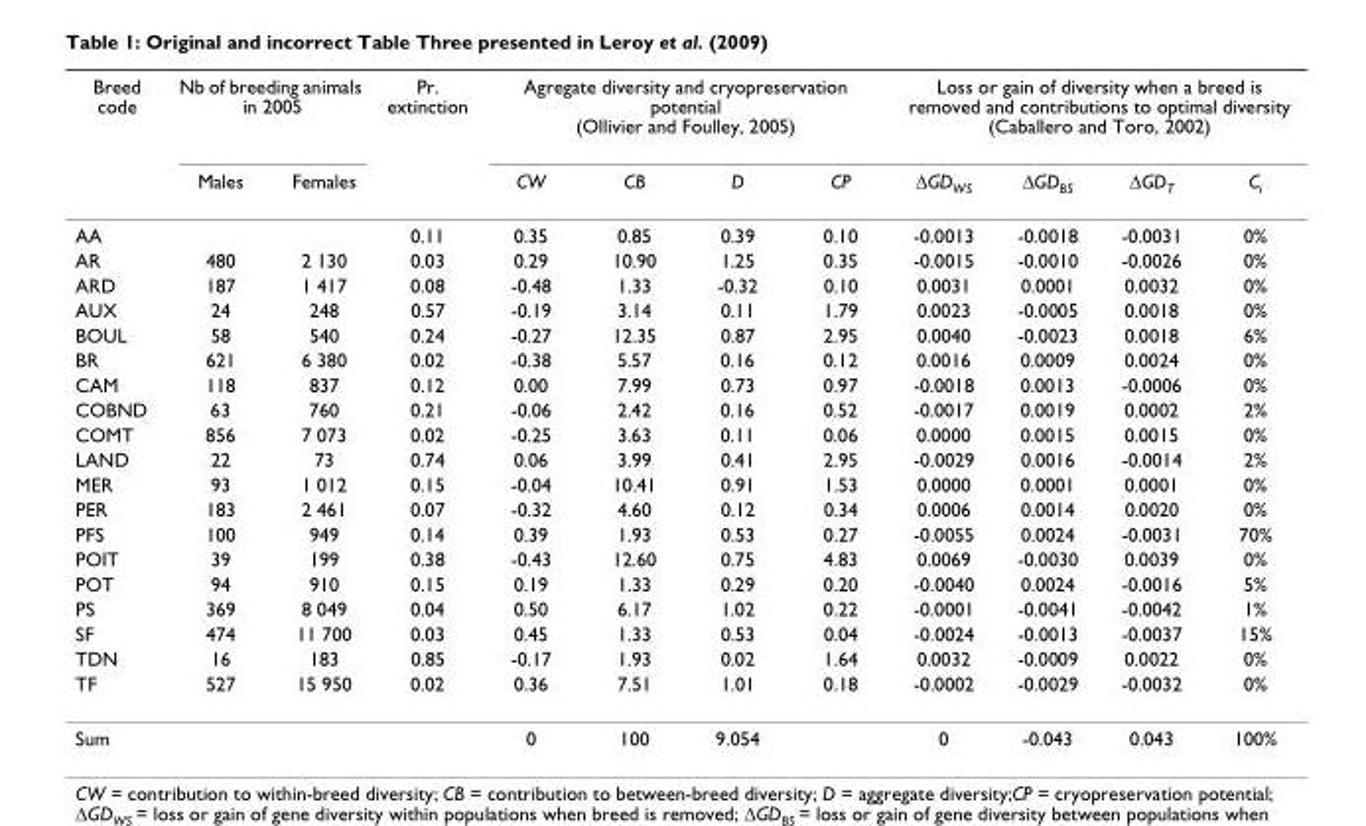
<table><thead><tr><td rowspan="2">Breed code</td><td colspan="2">Nb of breeding animals in 2005</td><td rowspan="2">Pr. extinction</td><td colspan="4">Agregate diversity and cryopreservation potential (Ollivier and Foulley, 2005)</td><td colspan="4">Loss or gain of diversity when a breed is removed and contributions to optimal diversity (Caballero and Toro, 2002)</td></tr><tr><td>Males</td><td>Females</td><td>CW</td><td>CB</td><td>D</td><td>CP</td><td>ΔGD<sub>WS</sub></td><td>ΔGD<sub>BS</sub></td><td>ΔGD<sub>T</sub></td><td>C<sub>i</sub></td></tr></thead><tbody><tr><td>AA</td><td></td><td></td><td>0.11</td><td>0.35</td><td>0.85</td><td>0.39</td><td>0.10</td><td>-0.0013</td><td>-0.0018</td><td>-0.0031</td><td>0%</td></tr><tr><td>AR</td><td>480</td><td>2 130</td><td>0.03</td><td>0.29</td><td>10.90</td><td>1.25</td><td>0.35</td><td>-0.0015</td><td>-0.0010</td><td>-0.0026</td><td>0%</td></tr><tr><td>ARD</td><td>187</td><td>1 417</td><td>0.08</td><td>-0.48</td><td>1.33</td><td>-0.32</td><td>0.10</td><td>0.0031</td><td>0.0001</td><td>0.0032</td><td>0%</td></tr><tr><td>AUX</td><td>24</td><td>248</td><td>0.57</td><td>-0.19</td><td>3.14</td><td>0.11</td><td>1.79</td><td>0.0023</td><td>-0.0005</td><td>0.0018</td><td>0%</td></tr><tr><td>BOUL</td><td>58</td><td>540</td><td>0.24</td><td>-0.27</td><td>12.35</td><td>0.87</td><td>2.95</td><td>0.0040</td><td>-0.0023</td><td>0.0018</td><td>6%</td></tr><tr><td>BR</td><td>621</td><td>6 380</td><td>0.02</td><td>-0.38</td><td>5.57</td><td>0.16</td><td>0.12</td><td>0.0016</td><td>0.0009</td><td>0.0024</td><td>0%</td></tr><tr><td>CAM</td><td>118</td><td>837</td><td>0.12</td><td>0.00</td><td>7.99</td><td>0.73</td><td>0.97</td><td>-0.0018</td><td>0.0013</td><td>-0.0006</td><td>0%</td></tr><tr><td>COBND</td><td>63</td><td>760</td><td>0.21</td><td>-0.06</td><td>2.42</td><td>0.16</td><td>0.52</td><td>-0.0017</td><td>0.0019</td><td>0.0002</td><td>2%</td></tr><tr><td>COMT</td><td>856</td><td>7 073</td><td>0.02</td><td>-0.25</td><td>3.63</td><td>0.11</td><td>0.06</td><td>0.0000</td><td>0.0015</td><td>0.0015</td><td>0%</td></tr><tr><td>LAND</td><td>22</td><td>73</td><td>0.74</td><td>0.06</td><td>3.99</td><td>0.41</td><td>2.95</td><td>-0.0029</td><td>0.0016</td><td>-0.0014</td><td>2%</td></tr><tr><td>MER</td><td>93</td><td>1 012</td><td>0.15</td><td>-0.04</td><td>10.41</td><td>0.91</td><td>1.53</td><td>0.0000</td><td>0.0001</td><td>0.0001</td><td>0%</td></tr><tr><td>PER</td><td>183</td><td>2 461</td><td>0.07</td><td>-0.32</td><td>4.60</td><td>0.12</td><td>0.34</td><td>0.0006</td><td>0.0014</td><td>0.0020</td><td>0%</td></tr><tr><td>PFS</td><td>100</td><td>949</td><td>0.14</td><td>0.39</td><td>1.93</td><td>0.53</td><td>0.27</td><td>-0.0055</td><td>0.0024</td><td>-0.0031</td><td>70%</td></tr><tr><td>POIT</td><td>39</td><td>199</td><td>0.38</td><td>-0.43</td><td>12.60</td><td>0.75</td><td>4.83</td><td>0.0069</td><td>-0.0030</td><td>0.0039</td><td>0%</td></tr><tr><td>POT</td><td>94</td><td>910</td><td>0.15</td><td>0.19</td><td>1.33</td><td>0.29</td><td>0.20</td><td>-0.0040</td><td>0.0024</td><td>-0.0016</td><td>5%</td></tr><tr><td>PS</td><td>369</td><td>8 049</td><td>0.04</td><td>0.50</td><td>6.17</td><td>1.02</td><td>0.22</td><td>-0.0001</td><td>-0.0041</td><td>-0.0042</td><td>1%</td></tr><tr><td>SF</td><td>474</td><td>11 700</td><td>0.03</td><td>0.45</td><td>1.33</td><td>0.53</td><td>0.04</td><td>-0.0024</td><td>-0.0013</td><td>-0.0037</td><td>15%</td></tr><tr><td>TDN</td><td>16</td><td>183</td><td>0.85</td><td>-0.17</td><td>1.93</td><td>0.02</td><td>1.64</td><td>0.0032</td><td>-0.0009</td><td>0.0022</td><td>0%</td></tr><tr><td>TF</td><td>527</td><td>15 950</td><td>0.02</td><td>0.36</td><td>7.51</td><td>1.01</td><td>0.18</td><td>-0.0002</td><td>-0.0029</td><td>-0.0032</td><td>0%</td></tr><tr><td>Sum</td><td></td><td></td><td></td><td>0</td><td>100</td><td>9.054</td><td></td><td>0</td><td>-0.043</td><td>0.043</td><td>100%</td></tr></tbody></table>